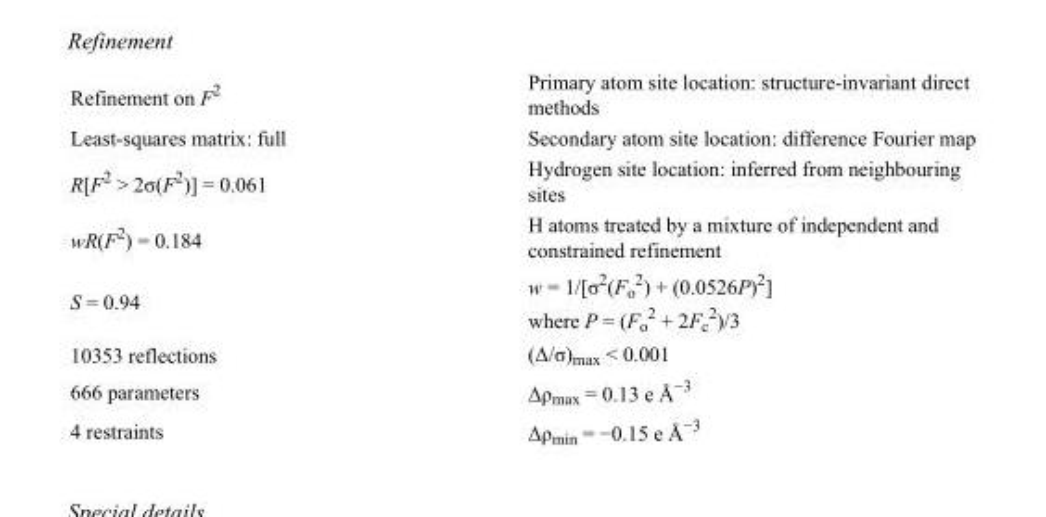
<table><tbody><tr><td>Refinement on F<sup>2</sup></td><td>Primary atom site location: structure-invariant direct methods</td></tr><tr><td>Least-squares matrix: full</td><td>Secondary atom site location: difference Fourier map</td></tr><tr><td>R[F<sup>2</sup> &gt; 2σ(F<sup>2</sup>)] = 0.061</td><td>Hydrogen site location: inferred from neighbouring sites</td></tr><tr><td>wR(F<sup>2</sup>) = 0.184</td><td>H atoms treated by a mixture of independent and constrained refinement</td></tr><tr><td>S = 0.94</td><td>w = 1/[σ<sup>2</sup>(F<sub>o</sub> <sup>2</sup>) + (0.0526P)<sup>2</sup>] where P = (F<sub>o</sub> <sup>2</sup> + 2F<sub>c</sub> <sup>2</sup>)/3</td></tr><tr><td>10353 reflections</td><td>(Δ/σ)<sub>max</sub> &lt; 0.001</td></tr><tr><td>666 parameters</td><td>Δρ<sub>max</sub> = 0.13 e Å<sup>−3</sup></td></tr><tr><td>4 restraints</td><td>Δρ<sub>min</sub> = −0.15 e Å<sup>−3</sup></td></tr></tbody></table>